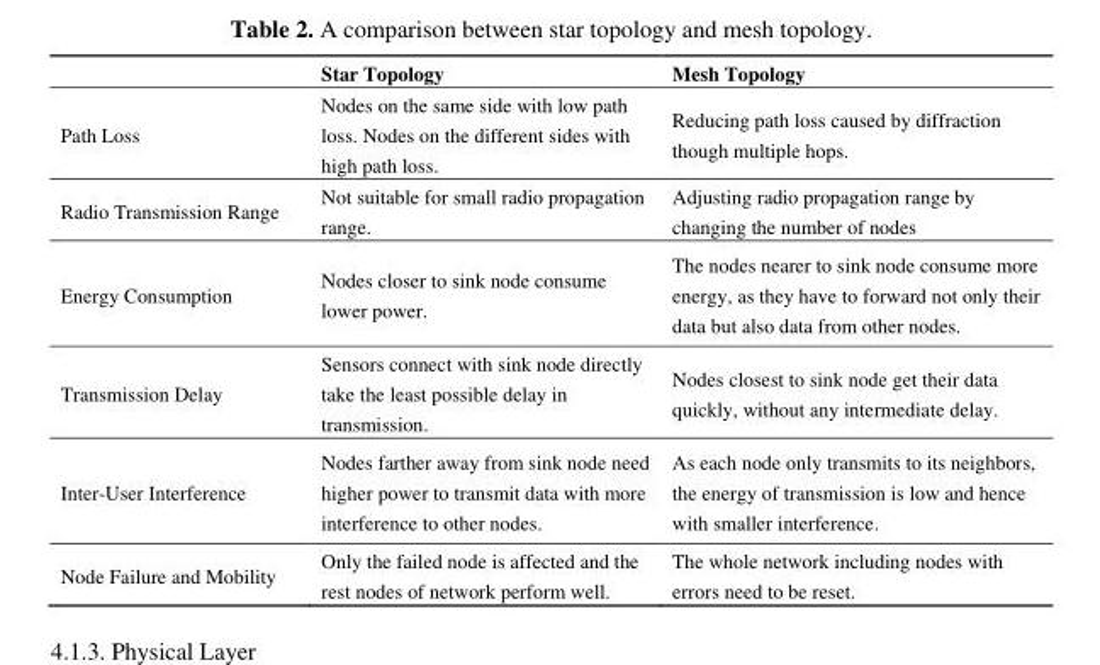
<table><thead><tr><td></td><td>Star Topology</td><td>Mesh Topology</td></tr></thead><tbody><tr><td>Path Loss</td><td>Nodes on the same side with low path loss. Nodes on the different sides with high path loss.</td><td>Reducing path loss caused by diffraction though multiple hops.</td></tr><tr><td>Radio Transmission Range</td><td>Not suitable for small radio propagation range.</td><td>Adjusting radio propagation range by changing the number of nodes</td></tr><tr><td>Energy Consumption</td><td>Nodes closer to sink node consume lower power.</td><td>The nodes nearer to sink node consume more energy, as they have to forward not only their data but also data from other nodes.</td></tr><tr><td>Transmission Delay</td><td>Sensors connect with sink node directly take the least possible delay in transmission.</td><td>Nodes closest to sink node get their data quickly, without any intermediate delay.</td></tr><tr><td>Inter-User Interference</td><td>Nodes farther away from sink node need higher power to transmit data with more interference to other nodes.</td><td>As each node only transmits to its neighbors, the energy of transmission is low and hence with smaller interference.</td></tr><tr><td>Node Failure and Mobility</td><td>Only the failed node is affected and the rest nodes of network perform well.</td><td>The whole network including nodes with errors need to be reset.</td></tr></tbody></table>